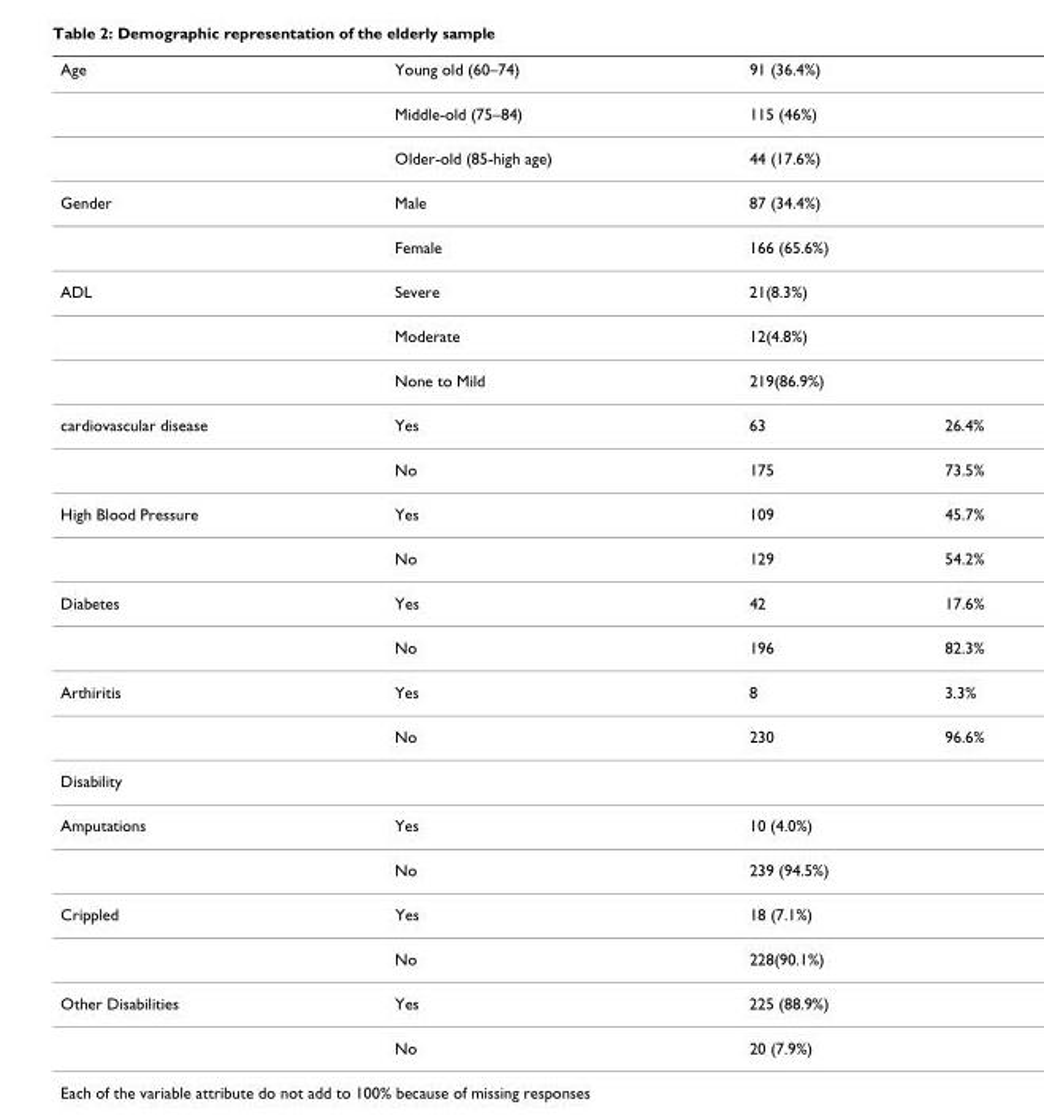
<table><thead><tr><td>Age</td><td>Young old (60–74)</td><td>91 (36.4%)</td><td></td></tr></thead><tbody><tr><td></td><td>Middle-old (75–84)</td><td>115 (46%)</td><td></td></tr><tr><td></td><td>Older-old (85-high age)</td><td>44 (17.6%)</td><td></td></tr><tr><td rowspan="2">Gender</td><td>Male</td><td>87 (34.4%)</td><td></td></tr><tr><td>Female</td><td>166 (65.6%)</td><td></td></tr><tr><td rowspan="3">ADL</td><td>Severe</td><td>21(8.3%)</td><td></td></tr><tr><td>Moderate</td><td>12(4.8%)</td><td></td></tr><tr><td>None to Mild</td><td>219(86.9%)</td><td></td></tr><tr><td rowspan="2">cardiovascular disease</td><td>Yes</td><td>63</td><td>26.4%</td></tr><tr><td>No</td><td>175</td><td>73.5%</td></tr><tr><td rowspan="2">High Blood Pressure</td><td>Yes</td><td>109</td><td>45.7%</td></tr><tr><td>No</td><td>129</td><td>54.2%</td></tr><tr><td rowspan="2">Diabetes</td><td>Yes</td><td>42</td><td>17.6%</td></tr><tr><td>No</td><td>196</td><td>82.3%</td></tr><tr><td rowspan="2">Arthiritis</td><td>Yes</td><td>8</td><td>3.3%</td></tr><tr><td>No</td><td>230</td><td>96.6%</td></tr><tr><td colspan="4">Disability</td></tr><tr><td rowspan="2">Amputations</td><td>Yes</td><td>10 (4.0%)</td><td></td></tr><tr><td>No</td><td>239 (94.5%)</td><td></td></tr><tr><td rowspan="2">Crippled</td><td>Yes</td><td>18 (7.1%)</td><td></td></tr><tr><td>No</td><td>228(90.1%)</td><td></td></tr><tr><td rowspan="2">Other Disabilities</td><td>Yes</td><td>225 (88.9%)</td><td></td></tr><tr><td>No</td><td>20 (7.9%)</td><td></td></tr></tbody></table>